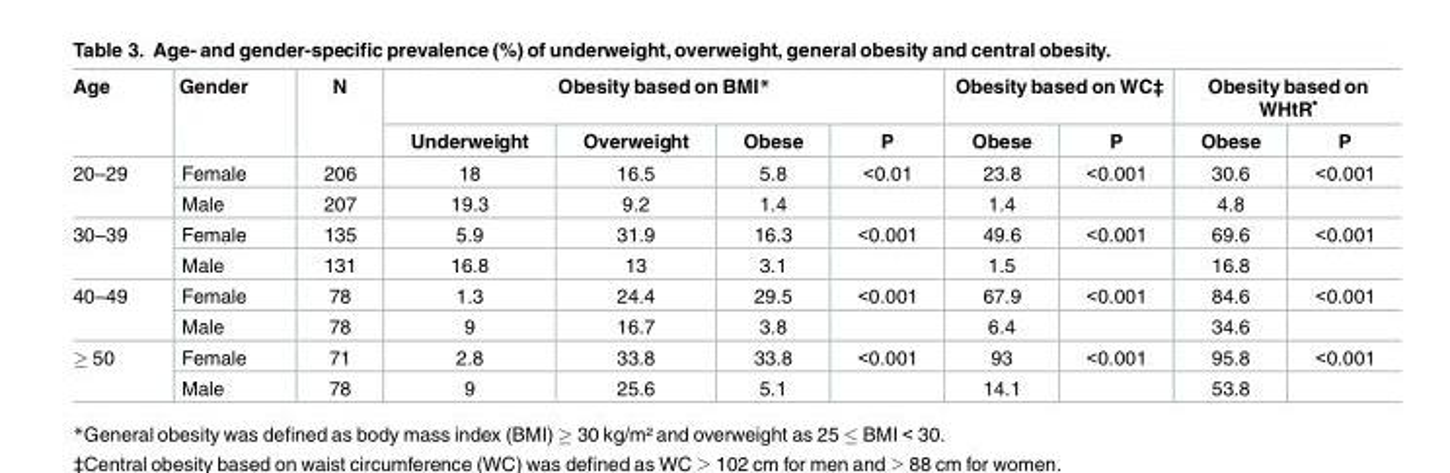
<table><thead><tr><td rowspan="2">Age</td><td rowspan="2">Gender</td><td rowspan="2">N</td><td colspan="4">Obesity based on BMI*</td><td colspan="2">Obesity based on WC‡</td><td colspan="2">Obesity based on WHtR<sup>•</sup></td></tr><tr><td>Underweight</td><td>Overweight</td><td>Obese</td><td>P</td><td>Obese</td><td>P</td><td>Obese</td><td>P</td></tr></thead><tbody><tr><td rowspan="2">20–29</td><td>Female</td><td>206</td><td>18</td><td>16.5</td><td>5.8</td><td>&lt;0.01</td><td>23.8</td><td>&lt;0.001</td><td>30.6</td><td>&lt;0.001</td></tr><tr><td>Male</td><td>207</td><td>19.3</td><td>9.2</td><td>1.4</td><td></td><td>1.4</td><td></td><td>4.8</td><td></td></tr><tr><td rowspan="2">30–39</td><td>Female</td><td>135</td><td>5.9</td><td>31.9</td><td>16.3</td><td>&lt;0.001</td><td>49.6</td><td>&lt;0.001</td><td>69.6</td><td>&lt;0.001</td></tr><tr><td>Male</td><td>131</td><td>16.8</td><td>13</td><td>3.1</td><td></td><td>1.5</td><td></td><td>16.8</td><td></td></tr><tr><td rowspan="2">40–49</td><td>Female</td><td>78</td><td>1.3</td><td>24.4</td><td>29.5</td><td>&lt;0.001</td><td>67.9</td><td>&lt;0.001</td><td>84.6</td><td>&lt;0.001</td></tr><tr><td>Male</td><td>78</td><td>9</td><td>16.7</td><td>3.8</td><td></td><td>6.4</td><td></td><td>34.6</td><td></td></tr><tr><td rowspan="2">≥ 50</td><td>Female</td><td>71</td><td>2.8</td><td>33.8</td><td>33.8</td><td>&lt;0.001</td><td>93</td><td>&lt;0.001</td><td>95.8</td><td>&lt;0.001</td></tr><tr><td>Male</td><td>78</td><td>9</td><td>25.6</td><td>5.1</td><td></td><td>14.1</td><td></td><td>53.8</td><td></td></tr></tbody></table>